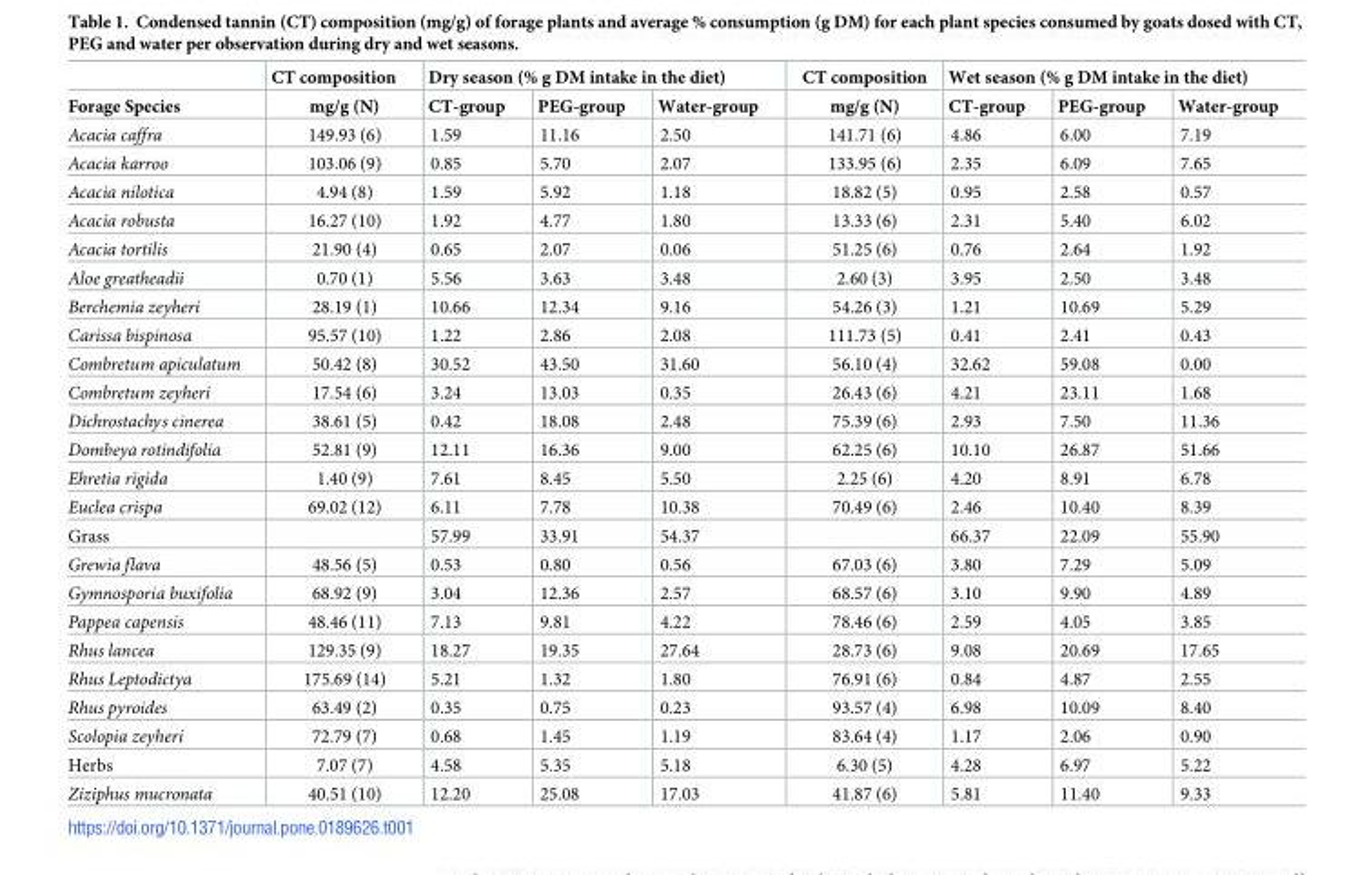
<table><thead><tr><td rowspan="2">Forage Species</td><td rowspan="2">CT composition mg/g (N)</td><td colspan="3">Dry season (% g DM intake in the diet)</td><td rowspan="2">CT composition mg/g (N)</td><td colspan="3">Wet season (% g DM intake in the diet)</td></tr><tr><td>CT-group</td><td>PEG-group</td><td>Water-group</td><td>CT-group</td><td>PEG-group</td><td>Water-group</td></tr></thead><tbody><tr><td>Acacia caffra</td><td>149.93 (6)</td><td>1.59</td><td>11.16</td><td>2.50</td><td>141.71 (6)</td><td>4.86</td><td>6.00</td><td>7.19</td></tr><tr><td>Acacia karroo</td><td>103.06 (9)</td><td>0.85</td><td>5.70</td><td>2.07</td><td>133.95 (6)</td><td>2.35</td><td>6.09</td><td>7.65</td></tr><tr><td>Acacia nilotica</td><td>4.94 (8)</td><td>1.59</td><td>5.92</td><td>1.18</td><td>18.82 (5)</td><td>0.95</td><td>2.58</td><td>0.57</td></tr><tr><td>Acacia robusta</td><td>16.27 (10)</td><td>1.92</td><td>4.77</td><td>1.80</td><td>13.33 (6)</td><td>2.31</td><td>5.40</td><td>6.02</td></tr><tr><td>Acacia tortilis</td><td>21.90 (4)</td><td>0.65</td><td>2.07</td><td>0.06</td><td>51.25 (6)</td><td>0.76</td><td>2.64</td><td>1.92</td></tr><tr><td>Aloe greatheadii</td><td>0.70 (1)</td><td>5.56</td><td>3.63</td><td>3.48</td><td>2.60 (3)</td><td>3.95</td><td>2.50</td><td>3.48</td></tr><tr><td>Berchemia zeyheri</td><td>28.19 (1)</td><td>10.66</td><td>12.34</td><td>9.16</td><td>54.26 (3)</td><td>1.21</td><td>10.69</td><td>5.29</td></tr><tr><td>Carissa bispinosa</td><td>95.57 (10)</td><td>1.22</td><td>2.86</td><td>2.08</td><td>111.73 (5)</td><td>0.41</td><td>2.41</td><td>0.43</td></tr><tr><td>Combretum apiculatum</td><td>50.42 (8)</td><td>30.52</td><td>43.50</td><td>31.60</td><td>56.10 (4)</td><td>32.62</td><td>59.08</td><td>0.00</td></tr><tr><td>Combretum zeyheri</td><td>17.54 (6)</td><td>3.24</td><td>13.03</td><td>0.35</td><td>26.43 (6)</td><td>4.21</td><td>23.11</td><td>1.68</td></tr><tr><td>Dichrostachys cinerea</td><td>38.61 (5)</td><td>0.42</td><td>18.08</td><td>2.48</td><td>75.39 (6)</td><td>2.93</td><td>7.50</td><td>11.36</td></tr><tr><td>Dombeya rotindifolia</td><td>52.81 (9)</td><td>12.11</td><td>16.36</td><td>9.00</td><td>62.25 (6)</td><td>10.10</td><td>26.87</td><td>51.66</td></tr><tr><td>Ehretia rigida</td><td>1.40 (9)</td><td>7.61</td><td>8.45</td><td>5.50</td><td>2.25 (6)</td><td>4.20</td><td>8.91</td><td>6.78</td></tr><tr><td>Euclea crispa</td><td>69.02 (12)</td><td>6.11</td><td>7.78</td><td>10.38</td><td>70.49 (6)</td><td>2.46</td><td>10.40</td><td>8.39</td></tr><tr><td>Grass</td><td></td><td>57.99</td><td>33.91</td><td>54.37</td><td></td><td>66.37</td><td>22.09</td><td>55.90</td></tr><tr><td>Grewia flava</td><td>48.56 (5)</td><td>0.53</td><td>0.80</td><td>0.56</td><td>67.03 (6)</td><td>3.80</td><td>7.29</td><td>5.09</td></tr><tr><td>Gymnosporia buxifolia</td><td>68.92 (9)</td><td>3.04</td><td>12.36</td><td>2.57</td><td>68.57 (6)</td><td>3.10</td><td>9.90</td><td>4.89</td></tr><tr><td>Pappea capensis</td><td>48.46 (11)</td><td>7.13</td><td>9.81</td><td>4.22</td><td>78.46 (6)</td><td>2.59</td><td>4.05</td><td>3.85</td></tr><tr><td>Rhus lancea</td><td>129.35 (9)</td><td>18.27</td><td>19.35</td><td>27.64</td><td>28.73 (6)</td><td>9.08</td><td>20.69</td><td>17.65</td></tr><tr><td>Rhus Leptodictya</td><td>175.69 (14)</td><td>5.21</td><td>1.32</td><td>1.80</td><td>76.91 (6)</td><td>0.84</td><td>4.87</td><td>2.55</td></tr><tr><td>Rhus pyroides</td><td>63.49 (2)</td><td>0.35</td><td>0.75</td><td>0.23</td><td>93.57 (4)</td><td>6.98</td><td>10.09</td><td>8.40</td></tr><tr><td>Scolopia zeyheri</td><td>72.79 (7)</td><td>0.68</td><td>1.45</td><td>1.19</td><td>83.64 (4)</td><td>1.17</td><td>2.06</td><td>0.90</td></tr><tr><td>Herbs</td><td>7.07 (7)</td><td>4.58</td><td>5.35</td><td>5.18</td><td>6.30 (5)</td><td>4.28</td><td>6.97</td><td>5.22</td></tr><tr><td>Ziziphus mucronata</td><td>40.51 (10)</td><td>12.20</td><td>25.08</td><td>17.03</td><td>41.87 (6)</td><td>5.81</td><td>11.40</td><td>9.33</td></tr></tbody></table>